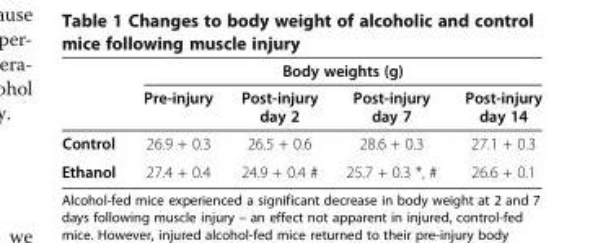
<table><thead><tr><td rowspan="2"></td><td colspan="4">Body weights (g)</td></tr><tr><td>Pre-injury</td><td>Post-injury day 2</td><td>Post-injury day 7</td><td>Post-injury day 14</td></tr></thead><tbody><tr><td>Control</td><td>26.9 + 0.3</td><td>26.5 + 0.6</td><td>28.6 + 0.3</td><td>27.1 + 0.3</td></tr><tr><td>Ethanol</td><td>27.4 + 0.4</td><td>24.9 + 0.4 #</td><td>25.7 + 0.3 *, #</td><td>26.6 + 0.1</td></tr></tbody></table>